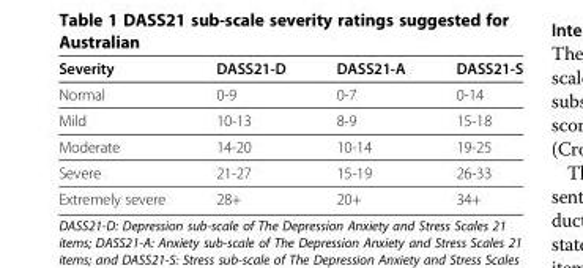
<table><thead><tr><td>Severity</td><td>DASS21-D</td><td>DASS21-A</td><td>DASS21-S</td></tr></thead><tbody><tr><td>Normal</td><td>0-9</td><td>0-7</td><td>0-14</td></tr><tr><td>Mild</td><td>10-13</td><td>8-9</td><td>15-18</td></tr><tr><td>Moderate</td><td>14-20</td><td>10-14</td><td>19-25</td></tr><tr><td>Severe</td><td>21-27</td><td>15-19</td><td>26-33</td></tr><tr><td>Extremely severe</td><td>28+</td><td>20+</td><td>34+</td></tr></tbody></table>